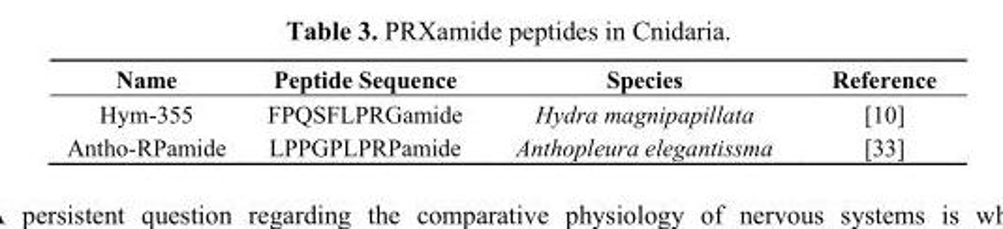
<table><thead><tr><td>Name</td><td>Peptide Sequence</td><td>Species</td><td>Reference</td></tr></thead><tbody><tr><td>Hym-355</td><td>FPQSFLPRGamide</td><td>Hydra magnipapillata</td><td>[10]</td></tr><tr><td>Antho-RPamide</td><td>LPPGPLPRPamide</td><td>Anthopleura elegantissma</td><td>[33]</td></tr></tbody></table>